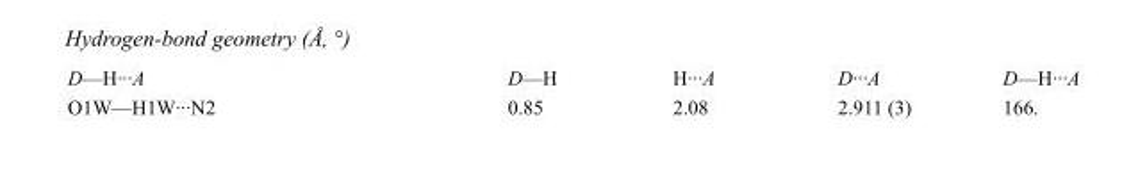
<table><tbody><tr><td>D—H···A</td><td>D—H</td><td>H···A</td><td>D···A</td><td>D—H···A</td></tr><tr><td>O1W—H1W···N2</td><td>0.85</td><td>2.08</td><td>2.911 (3)</td><td>166.</td></tr></tbody></table>